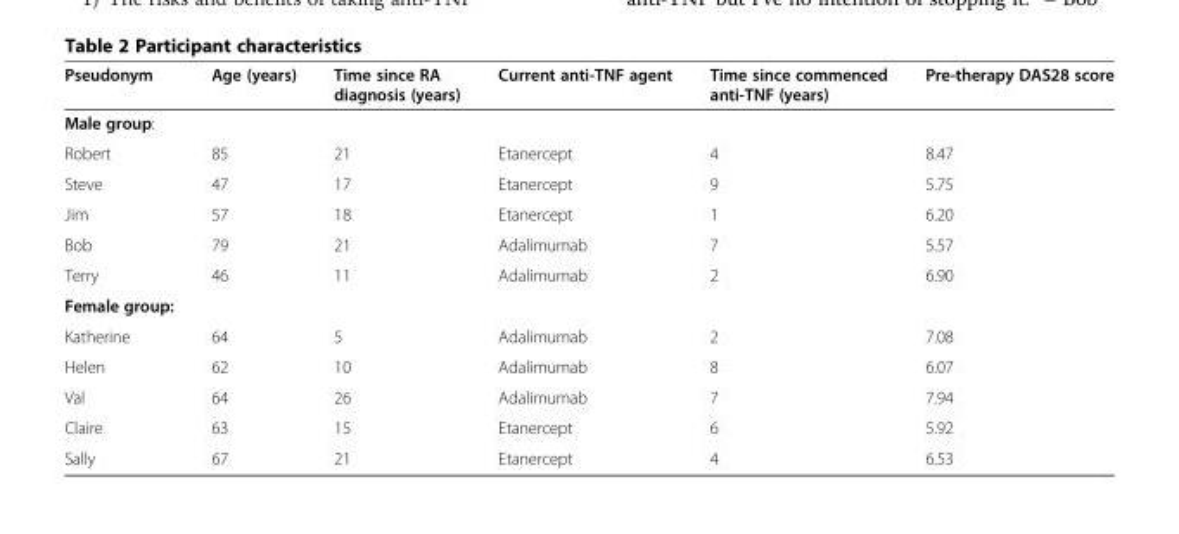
<table><thead><tr><td>Pseudonym</td><td>Age (years)</td><td>Time since RA diagnosis (years)</td><td>Current anti-TNF agent</td><td>Time since commenced anti-TNF (years)</td><td>Pre-therapy DAS28 score</td></tr></thead><tbody><tr><td colspan="6">Male group:</td></tr><tr><td>Robert</td><td>85</td><td>21</td><td>Etanercept</td><td>4</td><td>8.47</td></tr><tr><td>Steve</td><td>47</td><td>17</td><td>Etanercept</td><td>9</td><td>5.75</td></tr><tr><td>Jim</td><td>57</td><td>18</td><td>Etanercept</td><td>1</td><td>6.20</td></tr><tr><td>Bob</td><td>79</td><td>21</td><td>Adalimumab</td><td>7</td><td>5.57</td></tr><tr><td>Terry</td><td>46</td><td>11</td><td>Adalimumab</td><td>2</td><td>6.90</td></tr><tr><td colspan="6">Female group:</td></tr><tr><td>Katherine</td><td>64</td><td>5</td><td>Adalimumab</td><td>2</td><td>7.08</td></tr><tr><td>Helen</td><td>62</td><td>10</td><td>Adalimumab</td><td>8</td><td>6.07</td></tr><tr><td>Val</td><td>64</td><td>26</td><td>Adalimumab</td><td>7</td><td>7.94</td></tr><tr><td>Claire</td><td>63</td><td>15</td><td>Etanercept</td><td>6</td><td>5.92</td></tr><tr><td>Sally</td><td>67</td><td>21</td><td>Etanercept</td><td>4</td><td>6.53</td></tr></tbody></table>